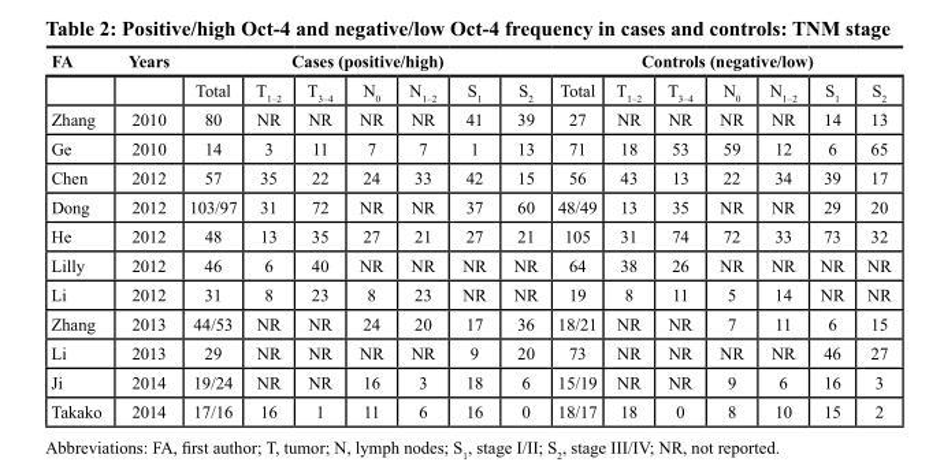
<table><thead><tr><td rowspan="2">FA</td><td rowspan="2">Years</td><td colspan="7">Cases (positive/high)</td><td colspan="7">Controls (negative/low)</td></tr><tr><td>Total</td><td>T<sub>1–2</sub></td><td>T<sub>3–4</sub></td><td>N<sub>0</sub></td><td>N<sub>1–2</sub></td><td>S<sub>1</sub></td><td>S<sub>2</sub></td><td>Total</td><td>T<sub>1–2</sub></td><td>T<sub>3–4</sub></td><td>N<sub>0</sub></td><td>N<sub>1–2</sub></td><td>S<sub>1</sub></td><td>S<sub>2</sub></td></tr></thead><tbody><tr><td>Zhang</td><td>2010</td><td>80</td><td>NR</td><td>NR</td><td>NR</td><td>NR</td><td>41</td><td>39</td><td>27</td><td>NR</td><td>NR</td><td>NR</td><td>NR</td><td>14</td><td>13</td></tr><tr><td>Ge</td><td>2010</td><td>14</td><td>3</td><td>11</td><td>7</td><td>7</td><td>1</td><td>13</td><td>71</td><td>18</td><td>53</td><td>59</td><td>12</td><td>6</td><td>65</td></tr><tr><td>Chen</td><td>2012</td><td>57</td><td>35</td><td>22</td><td>24</td><td>33</td><td>42</td><td>15</td><td>56</td><td>43</td><td>13</td><td>22</td><td>34</td><td>39</td><td>17</td></tr><tr><td>Dong</td><td>2012</td><td>103/97</td><td>31</td><td>72</td><td>NR</td><td>NR</td><td>37</td><td>60</td><td>48/49</td><td>13</td><td>35</td><td>NR</td><td>NR</td><td>29</td><td>20</td></tr><tr><td>He</td><td>2012</td><td>48</td><td>13</td><td>35</td><td>27</td><td>21</td><td>27</td><td>21</td><td>105</td><td>31</td><td>74</td><td>72</td><td>33</td><td>73</td><td>32</td></tr><tr><td>Lilly</td><td>2012</td><td>46</td><td>6</td><td>40</td><td>NR</td><td>NR</td><td>NR</td><td>NR</td><td>64</td><td>38</td><td>26</td><td>NR</td><td>NR</td><td>NR</td><td>NR</td></tr><tr><td>Li</td><td>2012</td><td>31</td><td>8</td><td>23</td><td>8</td><td>23</td><td>NR</td><td>NR</td><td>19</td><td>8</td><td>11</td><td>5</td><td>14</td><td>NR</td><td>NR</td></tr><tr><td>Zhang</td><td>2013</td><td>44/53</td><td>NR</td><td>NR</td><td>24</td><td>20</td><td>17</td><td>36</td><td>18/21</td><td>NR</td><td>NR</td><td>7</td><td>11</td><td>6</td><td>15</td></tr><tr><td>Li</td><td>2013</td><td>29</td><td>NR</td><td>NR</td><td>NR</td><td>NR</td><td>9</td><td>20</td><td>73</td><td>NR</td><td>NR</td><td>NR</td><td>NR</td><td>46</td><td>27</td></tr><tr><td>Ji</td><td>2014</td><td>19/24</td><td>NR</td><td>NR</td><td>16</td><td>3</td><td>18</td><td>6</td><td>15/19</td><td>NR</td><td>NR</td><td>9</td><td>6</td><td>16</td><td>3</td></tr><tr><td>Takako</td><td>2014</td><td>17/16</td><td>16</td><td>1</td><td>11</td><td>6</td><td>16</td><td>0</td><td>18/17</td><td>18</td><td>0</td><td>8</td><td>10</td><td>15</td><td>2</td></tr></tbody></table>